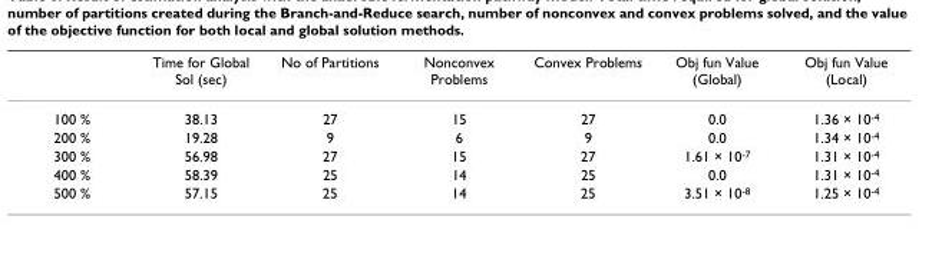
<table><thead><tr><td></td><td>Time for Global Sol (sec)</td><td>No of Partitions</td><td>Nonconvex Problems</td><td>Convex Problems</td><td>Obj fun Value (Global)</td><td>Obj fun Value (Local)</td></tr></thead><tbody><tr><td>100 %</td><td>38.13</td><td>27</td><td>15</td><td>27</td><td>0.0</td><td>1.36 × 10<sup>-4</sup></td></tr><tr><td>200 %</td><td>19.28</td><td>9</td><td>6</td><td>9</td><td>0.0</td><td>1.34 × 10<sup>-4</sup></td></tr><tr><td>300 %</td><td>56.98</td><td>27</td><td>15</td><td>27</td><td>1.61 × 10<sup>-7</sup></td><td>1.31 × 10<sup>-4</sup></td></tr><tr><td>400 %</td><td>58.39</td><td>25</td><td>14</td><td>25</td><td>0.0</td><td>1.31 × 10<sup>-4</sup></td></tr><tr><td>500 %</td><td>57.15</td><td>25</td><td>14</td><td>25</td><td>3.51 × 10<sup>-8</sup></td><td>1.25 × 10<sup>-4</sup></td></tr></tbody></table>